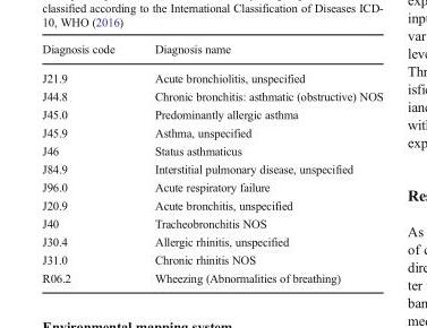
<table><thead><tr><td>Diagnosis code</td><td>Diagnosis name</td></tr></thead><tbody><tr><td>J21.9</td><td>Acute bronchiolitis, unspecified</td></tr><tr><td>J44.8</td><td>Chronic bronchitis: asthmatic (obstructive) NOS</td></tr><tr><td>J45.0</td><td>Predominantly allergic asthma</td></tr><tr><td>J45.9</td><td>Asthma, unspecified</td></tr><tr><td>J46</td><td>Status asthmaticus</td></tr><tr><td>J84.9</td><td>Interstitial pulmonary disease, unspecified</td></tr><tr><td>J96.0</td><td>Acute respiratory failure</td></tr><tr><td>J20.9</td><td>Acute bronchitis, unspecified</td></tr><tr><td>J40</td><td>Tracheobronchitis NOS</td></tr><tr><td>J30.4</td><td>Allergic rhinitis, unspecified</td></tr><tr><td>J31.0</td><td>Chronic rhinitis NOS</td></tr><tr><td>R06.2</td><td>Wheezing (Abnormalities of breathing)</td></tr></tbody></table>